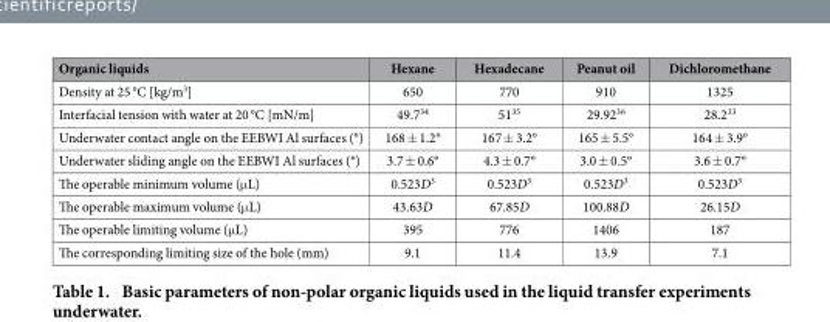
<table><thead><tr><td>Organic liquids</td><td>Hexane</td><td>Hexadecane</td><td>Peanut oil</td><td>Dichloromethane</td></tr></thead><tbody><tr><td>Density at 25 °C [kg/m<sup>3</sup>]</td><td>650</td><td>770</td><td>910</td><td>1325</td></tr><tr><td>Interfacial tension with water at 20 °C [mN/m]</td><td>49.7<sup>34</sup></td><td>51<sup>35</sup></td><td>29.92<sup>36</sup></td><td>28.2<sup>33</sup></td></tr><tr><td>Underwater contact angle on the EEBWI Al surfaces (°)</td><td>168 ± 1.2°</td><td>167 ± 3.2°</td><td>165 ± 5.5°</td><td>164 ± 3.9°</td></tr><tr><td>Underwater sliding angle on the EEBWI Al surfaces (°)</td><td>3.7 ± 0.6°</td><td>4.3 ± 0.7°</td><td>3.0 ± 0.5°</td><td>3.6 ± 0.7°</td></tr><tr><td>The operable minimum volume (μ L)</td><td>0.523D<sup>3</sup></td><td>0.523D<sup>3</sup></td><td>0.523D<sup>3</sup></td><td>0.523D<sup>3</sup></td></tr><tr><td>The operable maximum volume (μ L)</td><td>43.63D</td><td>67.85D</td><td>100.88D</td><td>26.15D</td></tr><tr><td>The operable limiting volume (μ L)</td><td>395</td><td>776</td><td>1406</td><td>187</td></tr><tr><td>The corresponding limiting size of the hole (mm)</td><td>9.1</td><td>11.4</td><td>13.9</td><td>7.1</td></tr></tbody></table>